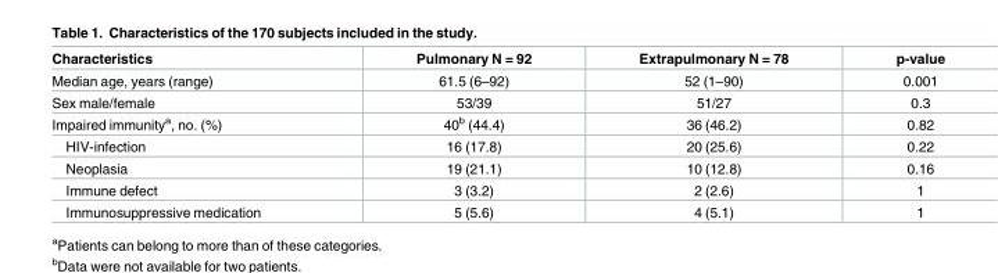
<table><thead><tr><td>Characteristics</td><td>Pulmonary N = 92</td><td>Extrapulmonary N = 78</td><td>p-value</td></tr></thead><tbody><tr><td>Median age, years (range)</td><td>61.5 (6–92)</td><td>52 (1–90)</td><td>0.001</td></tr><tr><td>Sex male/female</td><td>53/39</td><td>51/27</td><td>0.3</td></tr><tr><td>Impaired immunity<sup>a</sup>, no. (%)</td><td>40<sup>b</sup> (44.4)</td><td>36 (46.2)</td><td>0.82</td></tr><tr><td>HIV-infection</td><td>16 (17.8)</td><td>20 (25.6)</td><td>0.22</td></tr><tr><td>Neoplasia</td><td>19 (21.1)</td><td>10 (12.8)</td><td>0.16</td></tr><tr><td>Immune defect</td><td>3 (3.2)</td><td>2 (2.6)</td><td>1</td></tr><tr><td>Immunosuppressive medication</td><td>5 (5.6)</td><td>4 (5.1)</td><td>1</td></tr></tbody></table>